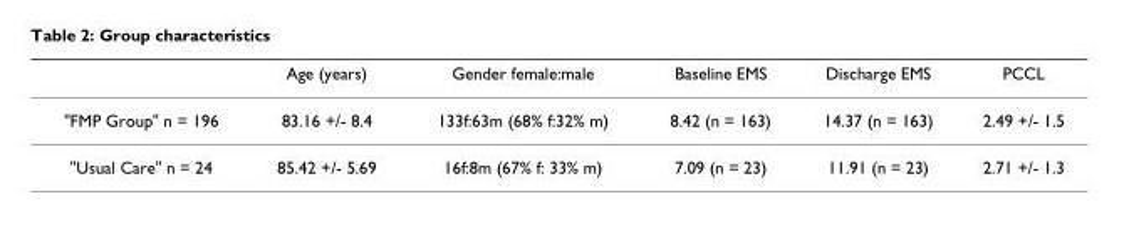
<table><thead><tr><td></td><td>Age (years)</td><td>Gender female:male</td><td>Baseline EMS</td><td>Discharge EMS</td><td>PCCL</td></tr></thead><tbody><tr><td>&quot;FMP Group&quot; n = 196</td><td>83.16 +/- 8.4</td><td>133f:63m (68% f:32% m)</td><td>8.42 (n = 163)</td><td>14.37 (n = 163)</td><td>2.49 +/- 1.5</td></tr><tr><td>&quot;Usual Care&quot; n = 24</td><td>85.42 +/- 5.69</td><td>16f:8m (67% f: 33% m)</td><td>7.09 (n = 23)</td><td>11.91 (n = 23)</td><td>2.71 +/- 1.3</td></tr></tbody></table>